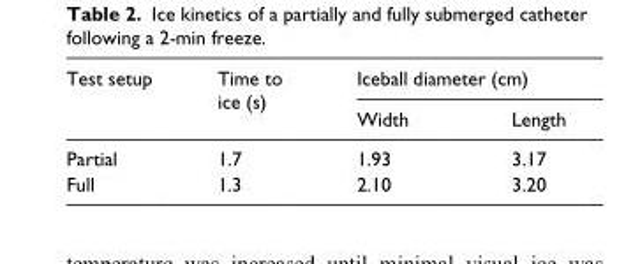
<table><thead><tr><td rowspan="2">Test setup</td><td rowspan="2">Time to ice (s)</td><td colspan="2">Iceball diameter (cm)</td></tr><tr><td>Width</td><td>Length</td></tr></thead><tbody><tr><td>Partial</td><td>1.7</td><td>1.93</td><td>3.17</td></tr><tr><td>Full</td><td>1.3</td><td>2.10</td><td>3.20</td></tr></tbody></table>